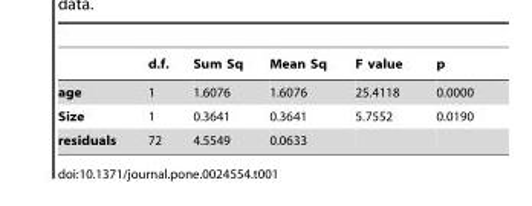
<table><thead><tr><td></td><td>d.f.</td><td>Sum Sq</td><td>Mean Sq</td><td>F value</td><td>p</td></tr></thead><tbody><tr><td>age</td><td>1</td><td>1.6076</td><td>1.6076</td><td>25.4118</td><td>0.0000</td></tr><tr><td>Size</td><td>1</td><td>0.3641</td><td>0.3641</td><td>5.7552</td><td>0.0190</td></tr><tr><td>residuals</td><td>72</td><td>4.5549</td><td>0.0633</td><td></td><td></td></tr></tbody></table>